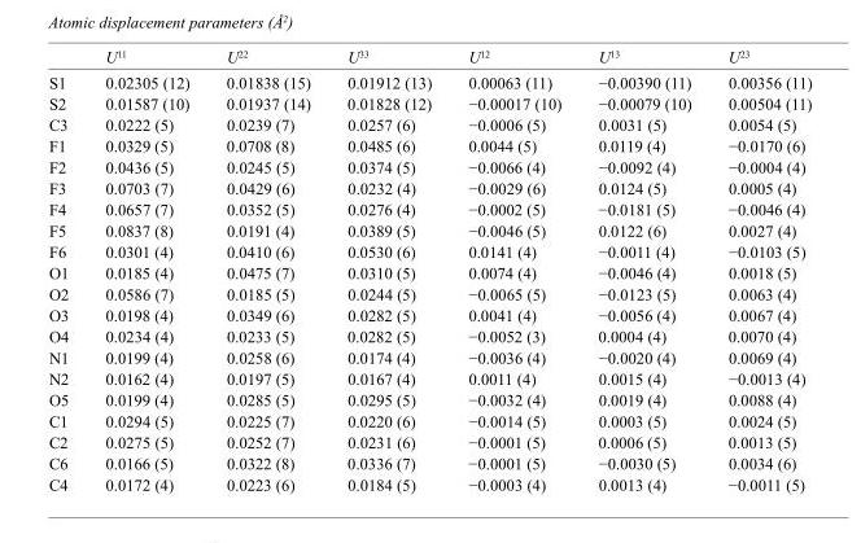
<table><thead><tr><td></td><td>U<sup>11</sup></td><td>U<sup>22</sup></td><td>U<sup>33</sup></td><td>U<sup>12</sup></td><td>U<sup>13</sup></td><td>U<sup>23</sup></td></tr></thead><tbody><tr><td>S1</td><td>0.02305 (12)</td><td>0.01838 (15)</td><td>0.01912 (13)</td><td>0.00063 (11)</td><td>−0.00390 (11)</td><td>0.00356 (11)</td></tr><tr><td>S2</td><td>0.01587 (10)</td><td>0.01937 (14)</td><td>0.01828 (12)</td><td>−0.00017 (10)</td><td>−0.00079 (10)</td><td>0.00504 (11)</td></tr><tr><td>C3</td><td>0.0222 (5)</td><td>0.0239 (7)</td><td>0.0257 (6)</td><td>−0.0006 (5)</td><td>0.0031 (5)</td><td>0.0054 (5)</td></tr><tr><td>F1</td><td>0.0329 (5)</td><td>0.0708 (8)</td><td>0.0485 (6)</td><td>0.0044 (5)</td><td>0.0119 (4)</td><td>−0.0170 (6)</td></tr><tr><td>F2</td><td>0.0436 (5)</td><td>0.0245 (5)</td><td>0.0374 (5)</td><td>−0.0066 (4)</td><td>−0.0092 (4)</td><td>−0.0004 (4)</td></tr><tr><td>F3</td><td>0.0703 (7)</td><td>0.0429 (6)</td><td>0.0232 (4)</td><td>−0.0029 (6)</td><td>0.0124 (5)</td><td>0.0005 (4)</td></tr><tr><td>F4</td><td>0.0657 (7)</td><td>0.0352 (5)</td><td>0.0276 (4)</td><td>−0.0002 (5)</td><td>−0.0181 (5)</td><td>−0.0046 (4)</td></tr><tr><td>F5</td><td>0.0837 (8)</td><td>0.0191 (4)</td><td>0.0389 (5)</td><td>−0.0046 (5)</td><td>0.0122 (6)</td><td>0.0027 (4)</td></tr><tr><td>F6</td><td>0.0301 (4)</td><td>0.0410 (6)</td><td>0.0530 (6)</td><td>0.0141 (4)</td><td>−0.0011 (4)</td><td>−0.0103 (5)</td></tr><tr><td>O1</td><td>0.0185 (4)</td><td>0.0475 (7)</td><td>0.0310 (5)</td><td>0.0074 (4)</td><td>−0.0046 (4)</td><td>0.0018 (5)</td></tr><tr><td>O2</td><td>0.0586 (7)</td><td>0.0185 (5)</td><td>0.0244 (5)</td><td>−0.0065 (5)</td><td>−0.0123 (5)</td><td>0.0063 (4)</td></tr><tr><td>O3</td><td>0.0198 (4)</td><td>0.0349 (6)</td><td>0.0282 (5)</td><td>0.0041 (4)</td><td>−0.0056 (4)</td><td>0.0067 (4)</td></tr><tr><td>O4</td><td>0.0234 (4)</td><td>0.0233 (5)</td><td>0.0282 (5)</td><td>−0.0052 (3)</td><td>0.0004 (4)</td><td>0.0070 (4)</td></tr><tr><td>N1</td><td>0.0199 (4)</td><td>0.0258 (6)</td><td>0.0174 (4)</td><td>−0.0036 (4)</td><td>−0.0020 (4)</td><td>0.0069 (4)</td></tr><tr><td>N2</td><td>0.0162 (4)</td><td>0.0197 (5)</td><td>0.0167 (4)</td><td>0.0011 (4)</td><td>0.0015 (4)</td><td>−0.0013 (4)</td></tr><tr><td>O5</td><td>0.0199 (4)</td><td>0.0285 (5)</td><td>0.0295 (5)</td><td>−0.0032 (4)</td><td>0.0019 (4)</td><td>0.0088 (4)</td></tr><tr><td>C1</td><td>0.0294 (5)</td><td>0.0225 (7)</td><td>0.0220 (6)</td><td>−0.0014 (5)</td><td>0.0003 (5)</td><td>0.0024 (5)</td></tr><tr><td>C2</td><td>0.0275 (5)</td><td>0.0252 (7)</td><td>0.0231 (6)</td><td>−0.0001 (5)</td><td>0.0006 (5)</td><td>0.0013 (5)</td></tr><tr><td>C6</td><td>0.0166 (5)</td><td>0.0322 (8)</td><td>0.0336 (7)</td><td>−0.0001 (5)</td><td>−0.0030 (5)</td><td>0.0034 (6)</td></tr><tr><td>C4</td><td>0.0172 (4)</td><td>0.0223 (6)</td><td>0.0184 (5)</td><td>−0.0003 (4)</td><td>0.0013 (4)</td><td>−0.0011 (5)</td></tr></tbody></table>